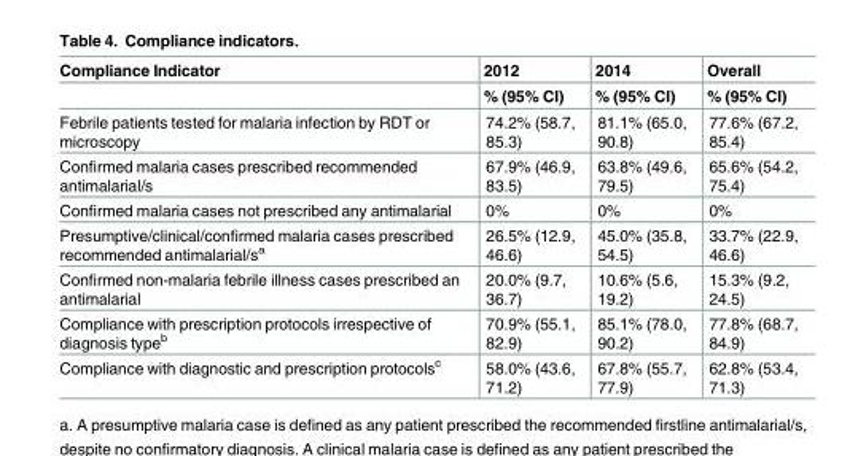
<table><thead><tr><td rowspan="2">Compliance Indicator</td><td rowspan="2">2012 % (95% CI)</td><td rowspan="2">2014 % (95% CI)</td><td rowspan="2">Overall % (95% CI)</td></tr><tr></tr></thead><tbody><tr><td>Febrile patients tested for malaria infection by RDT or microscopy</td><td>74.2% (58.7, 85.3)</td><td>81.1% (65.0, 90.8)</td><td>77.6% (67.2, 85.4)</td></tr><tr><td>Confirmed malaria cases prescribed recommended antimalarial/s</td><td>67.9% (46.9, 83.5)</td><td>63.8% (49.6, 79.5)</td><td>65.6% (54.2, 75.4)</td></tr><tr><td>Confirmed malaria cases not prescribed any antimalarial</td><td>0%</td><td>0%</td><td>0%</td></tr><tr><td>Presumptive/clinical/confirmed malaria cases prescribed recommended antimalarial/s<sup>a</sup></td><td>26.5% (12.9, 46.6)</td><td>45.0% (35.8, 54.5)</td><td>33.7% (22.9, 46.6)</td></tr><tr><td>Confirmed non-malaria febrile illness cases prescribed an antimalarial</td><td>20.0% (9.7, 36.7)</td><td>10.6% (5.6, 19.2)</td><td>15.3% (9.2, 24.5)</td></tr><tr><td>Compliance with prescription protocols irrespective of diagnosis type<sup>b</sup></td><td>70.9% (55.1, 82.9)</td><td>85.1% (78.0, 90.2)</td><td>77.8% (68.7, 84.9)</td></tr><tr><td>Compliance with diagnostic and prescription protocols<sup>c</sup></td><td>58.0% (43.6, 71.2)</td><td>67.8% (55.7, 77.9)</td><td>62.8% (53.4, 71.3)</td></tr></tbody></table>